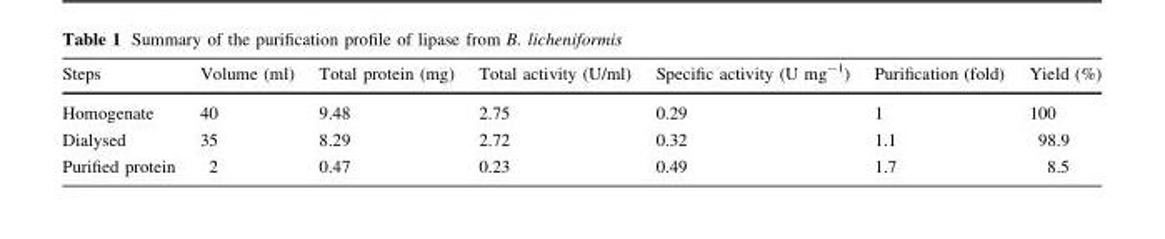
<table><thead><tr><td>Steps</td><td>Volume (ml)</td><td>Total protein (mg)</td><td>Total activity (U/ml)</td><td>Specific activity (U mg<sup>-1</sup>)</td><td>Purification (fold)</td><td>Yield (%)</td></tr></thead><tbody><tr><td>Homogenate</td><td>40</td><td>9.48</td><td>2.75</td><td>0.29</td><td>1</td><td>100</td></tr><tr><td>Dialysed</td><td>35</td><td>8.29</td><td>2.72</td><td>0.32</td><td>1.1</td><td>98.9</td></tr><tr><td>Purified protein</td><td>2</td><td>0.47</td><td>0.23</td><td>0.49</td><td>1.7</td><td>8.5</td></tr></tbody></table>